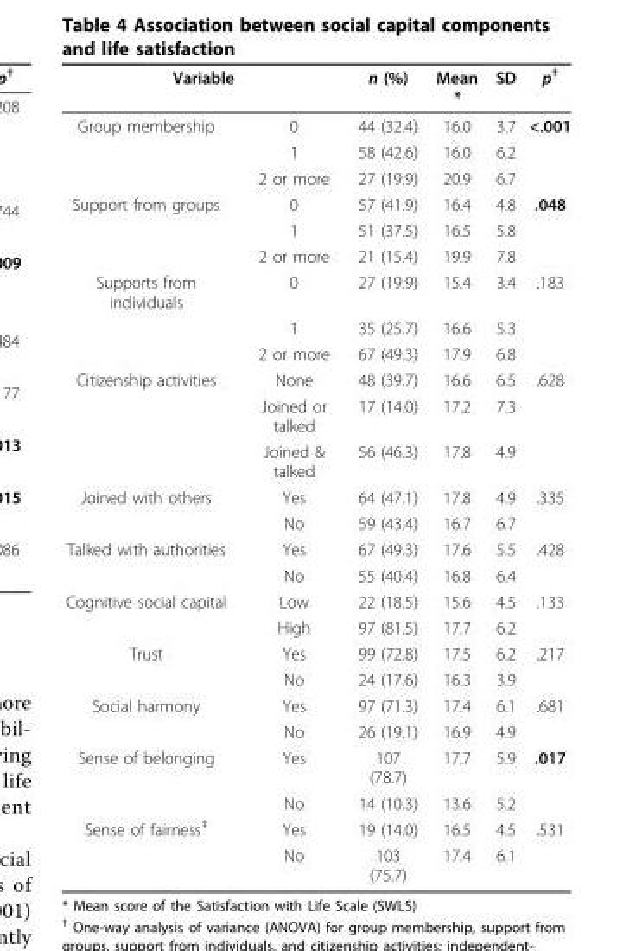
<table><thead><tr><td colspan="2">Variable</td><td rowspan="2">n (%) 44 (32.4)</td><td rowspan="2">Mean * 16.0</td><td rowspan="2">SD 3.7</td><td rowspan="2">p<sup>†</sup> &lt;.001</td></tr><tr><td>Group membership</td><td>0</td></tr></thead><tbody><tr><td></td><td>1</td><td>58 (42.6)</td><td>16.0</td><td>6.2</td><td></td></tr><tr><td></td><td>2 or more</td><td>27 (19.9)</td><td>20.9</td><td>6.7</td><td></td></tr><tr><td rowspan="3">Support from groups</td><td>0</td><td>57 (41.9)</td><td>16.4</td><td>4.8</td><td>.048</td></tr><tr><td>1</td><td>51 (37.5)</td><td>16.5</td><td>5.8</td><td></td></tr><tr><td>2 or more</td><td>21 (15.4)</td><td>19.9</td><td>7.8</td><td></td></tr><tr><td rowspan="3">Supports from individuals</td><td>0</td><td>27 (19.9)</td><td>15.4</td><td>3.4</td><td>.183</td></tr><tr><td>1</td><td>35 (25.7)</td><td>16.6</td><td>5.3</td><td></td></tr><tr><td>2 or more</td><td>67 (49.3)</td><td>17.9</td><td>6.8</td><td></td></tr><tr><td rowspan="3">Citizenship activities</td><td>None</td><td>48 (39.7)</td><td>16.6</td><td>6.5</td><td>.628</td></tr><tr><td>Joined or talked</td><td>17 (14.0)</td><td>17.2</td><td>7.3</td><td></td></tr><tr><td>Joined &amp; talked</td><td>56 (46.3)</td><td>17.8</td><td>4.9</td><td></td></tr><tr><td rowspan="2">Joined with others</td><td>Yes</td><td>64 (47.1)</td><td>17.8</td><td>4.9</td><td>.335</td></tr><tr><td>No</td><td>59 (43.4)</td><td>16.7</td><td>6.7</td><td></td></tr><tr><td rowspan="2">Talked with authorities</td><td>Yes</td><td>67 (49.3)</td><td>17.6</td><td>5.5</td><td>.428</td></tr><tr><td>No</td><td>55 (40.4)</td><td>16.8</td><td>6.4</td><td></td></tr><tr><td rowspan="2">Cognitive social capital</td><td>Low</td><td>22 (18.5)</td><td>15.6</td><td>4.5</td><td>.133</td></tr><tr><td>High</td><td>97 (81.5)</td><td>17.7</td><td>6.2</td><td></td></tr><tr><td rowspan="2">Trust</td><td>Yes</td><td>99 (72.8)</td><td>17.5</td><td>6.2</td><td>.217</td></tr><tr><td>No</td><td>24 (17.6)</td><td>16.3</td><td>3.9</td><td></td></tr><tr><td rowspan="2">Social harmony</td><td>Yes</td><td>97 (71.3)</td><td>17.4</td><td>6.1</td><td>.681</td></tr><tr><td>No</td><td>26 (19.1)</td><td>16.9</td><td>4.9</td><td></td></tr><tr><td rowspan="2">Sense of belonging</td><td>Yes</td><td>107 (78.7)</td><td>17.7</td><td>5.9</td><td>.017</td></tr><tr><td>No</td><td>14 (10.3)</td><td>13.6</td><td>5.2</td><td></td></tr><tr><td rowspan="2">Sense of fairness<sup>‡</sup></td><td>Yes</td><td>19 (14.0)</td><td>16.5</td><td>4.5</td><td>.531</td></tr><tr><td>No</td><td>103 (75.7)</td><td>17.4</td><td>6.1</td><td></td></tr></tbody></table>